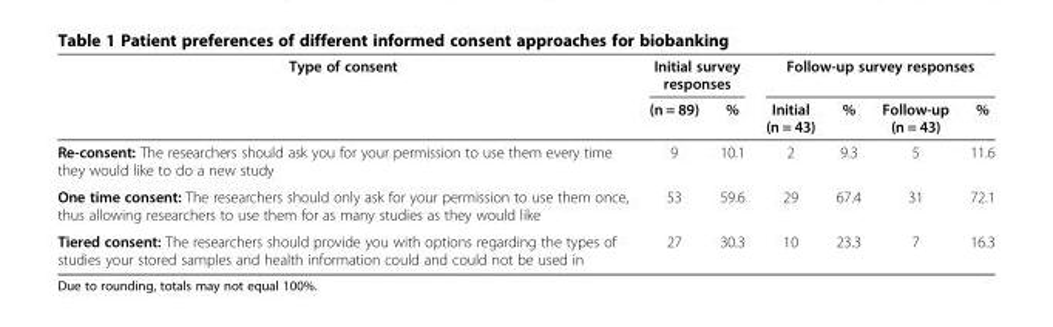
<table><thead><tr><td rowspan="2">Type of consent</td><td colspan="2">Initial survey responses</td><td colspan="4">Follow-up survey responses</td></tr><tr><td>(n = 89)</td><td>%</td><td>Initial (n = 43)</td><td>%</td><td>Follow-up (n = 43)</td><td>%</td></tr></thead><tbody><tr><td>Re-consent: The researchers should ask you for your permission to use them every time they would like to do a new study</td><td>9</td><td>10.1</td><td>2</td><td>9.3</td><td>5</td><td>11.6</td></tr><tr><td>One time consent: The researchers should only ask for your permission to use them once, thus allowing researchers to use them for as many studies as they would like</td><td>53</td><td>59.6</td><td>29</td><td>67.4</td><td>31</td><td>72.1</td></tr><tr><td>Tiered consent: The researchers should provide you with options regarding the types of studies your stored samples and health information could and could not be used in</td><td>27</td><td>30.3</td><td>10</td><td>23.3</td><td>7</td><td>16.3</td></tr></tbody></table>